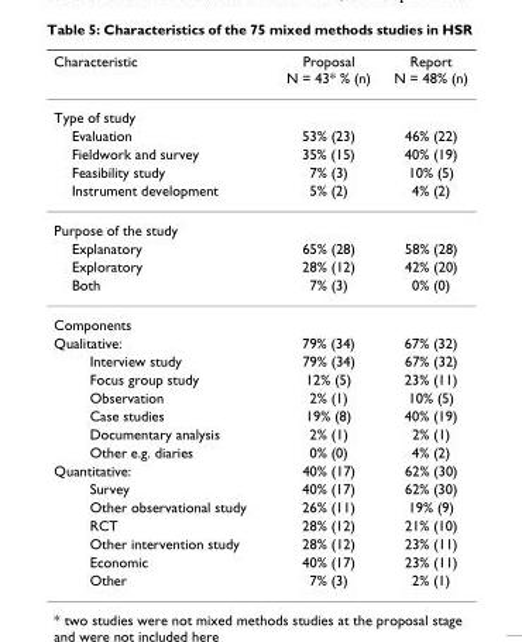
<table><thead><tr><td>Characteristic</td><td>Proposal N = 43* % (n)</td><td>Report N = 48% (n)</td></tr></thead><tbody><tr><td colspan="3">Type of study</td></tr><tr><td>Evaluation</td><td>53% (23)</td><td>46% (22)</td></tr><tr><td>Fieldwork and survey</td><td>35% (15)</td><td>40% (19)</td></tr><tr><td>Feasibility study</td><td>7% (3)</td><td>10% (5)</td></tr><tr><td>Instrument development</td><td>5% (2)</td><td>4% (2)</td></tr><tr><td colspan="3">Purpose of the study</td></tr><tr><td>Explanatory</td><td>65% (28)</td><td>58% (28)</td></tr><tr><td>Exploratory</td><td>28% (12)</td><td>42% (20)</td></tr><tr><td>Both</td><td>7% (3)</td><td>0% (0)</td></tr><tr><td colspan="3">Components</td></tr><tr><td>Qualitative:</td><td>79% (34)</td><td>67% (32)</td></tr><tr><td>Interview study</td><td>79% (34)</td><td>67% (32)</td></tr><tr><td>Focus group study</td><td>12% (5)</td><td>23% (11)</td></tr><tr><td>Observation</td><td>2% (1)</td><td>10% (5)</td></tr><tr><td>Case studies</td><td>19% (8)</td><td>40% (19)</td></tr><tr><td>Documentary analysis</td><td>2% (1)</td><td>2% (1)</td></tr><tr><td>Other e.g. diaries</td><td>0% (0)</td><td>4% (2)</td></tr><tr><td>Quantitative:</td><td>40% (17)</td><td>62% (30)</td></tr><tr><td>Survey</td><td>40% (17)</td><td>62% (30)</td></tr><tr><td>Other observational study</td><td>26% (11)</td><td>19% (9)</td></tr><tr><td>RCT</td><td>28% (12)</td><td>21% (10)</td></tr><tr><td>Other intervention study</td><td>28% (12)</td><td>23% (11)</td></tr><tr><td>Economic</td><td>40% (17)</td><td>23% (11)</td></tr><tr><td>Other</td><td>7% (3)</td><td>2% (1)</td></tr></tbody></table>